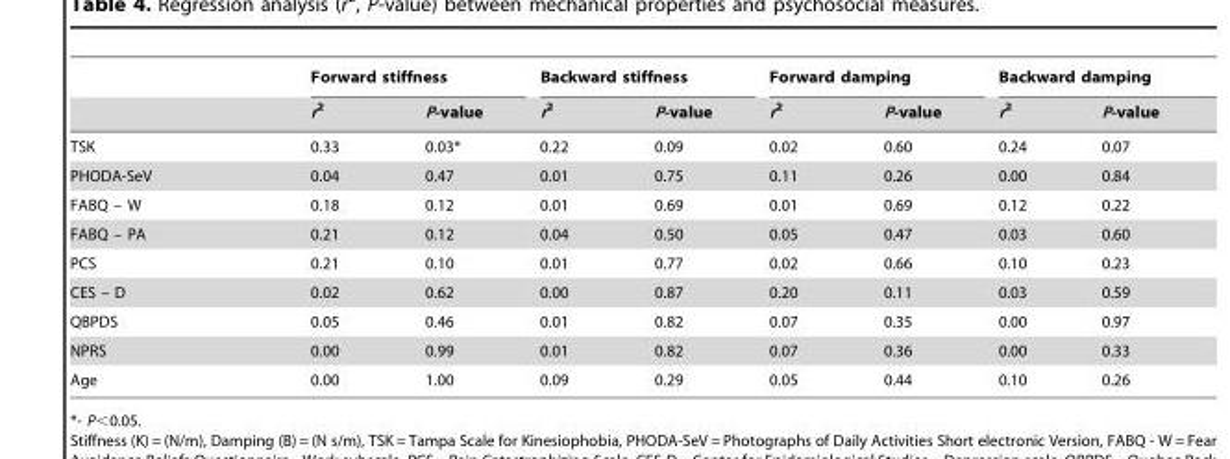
<table><thead><tr><td rowspan="2"></td><td colspan="2">Forward stiffness</td><td colspan="2">Backward stiffness</td><td colspan="2">Forward damping</td><td colspan="2">Backward damping</td></tr><tr><td>r<sup>2</sup></td><td>P-value</td><td>r<sup>2</sup></td><td>P-value</td><td>r<sup>2</sup></td><td>P-value</td><td>r<sup>2</sup></td><td>P-value</td></tr></thead><tbody><tr><td>TSK</td><td>0.33</td><td>0.03*</td><td>0.22</td><td>0.09</td><td>0.02</td><td>0.60</td><td>0.24</td><td>0.07</td></tr><tr><td>PHODA-SeV</td><td>0.04</td><td>0.47</td><td>0.01</td><td>0.75</td><td>0.11</td><td>0.26</td><td>0.00</td><td>0.84</td></tr><tr><td>FABQ – W</td><td>0.18</td><td>0.12</td><td>0.01</td><td>0.69</td><td>0.01</td><td>0.69</td><td>0.12</td><td>0.22</td></tr><tr><td>FABQ – PA</td><td>0.21</td><td>0.12</td><td>0.04</td><td>0.50</td><td>0.05</td><td>0.47</td><td>0.03</td><td>0.60</td></tr><tr><td>PCS</td><td>0.21</td><td>0.10</td><td>0.01</td><td>0.77</td><td>0.02</td><td>0.66</td><td>0.10</td><td>0.23</td></tr><tr><td>CES – D</td><td>0.02</td><td>0.62</td><td>0.00</td><td>0.87</td><td>0.20</td><td>0.11</td><td>0.03</td><td>0.59</td></tr><tr><td>QBPDS</td><td>0.05</td><td>0.46</td><td>0.01</td><td>0.82</td><td>0.07</td><td>0.35</td><td>0.00</td><td>0.97</td></tr><tr><td>NPRS</td><td>0.00</td><td>0.99</td><td>0.01</td><td>0.82</td><td>0.07</td><td>0.36</td><td>0.00</td><td>0.33</td></tr><tr><td>Age</td><td>0.00</td><td>1.00</td><td>0.09</td><td>0.29</td><td>0.05</td><td>0.44</td><td>0.10</td><td>0.26</td></tr></tbody></table>